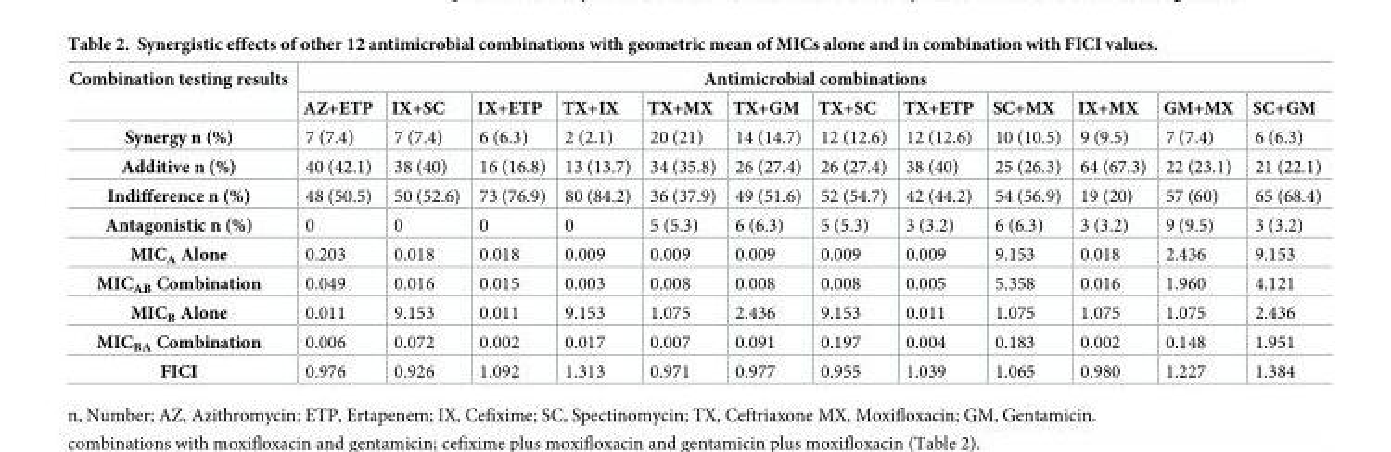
<table><thead><tr><td rowspan="2">Combination testing results</td><td colspan="12">Antimicrobial combinations</td></tr><tr><td>AZ+ETP</td><td>IX+SC</td><td>IX+ETP</td><td>TX+IX</td><td>TX+MX</td><td>TX+GM</td><td>TX+SC</td><td>TX+ETP</td><td>SC+MX</td><td>IX+MX</td><td>GM+MX</td><td>SC+GM</td></tr></thead><tbody><tr><td>Synergy n (%)</td><td>7 (7.4)</td><td>7 (7.4)</td><td>6 (6.3)</td><td>2 (2.1)</td><td>20 (21)</td><td>14 (14.7)</td><td>12 (12.6)</td><td>12 (12.6)</td><td>10 (10.5)</td><td>9 (9.5)</td><td>7 (7.4)</td><td>6 (6.3)</td></tr><tr><td>Additive n (%)</td><td>40 (42.1)</td><td>38 (40)</td><td>16 (16.8)</td><td>13 (13.7)</td><td>34 (35.8)</td><td>26 (27.4)</td><td>26 (27.4)</td><td>38 (40)</td><td>25 (26.3)</td><td>64 (67.3)</td><td>22 (23.1)</td><td>21 (22.1)</td></tr><tr><td>Indifference n (%)</td><td>48 (50.5)</td><td>50 (52.6)</td><td>73 (76.9)</td><td>80 (84.2)</td><td>36 (37.9)</td><td>49 (51.6)</td><td>52 (54.7)</td><td>42 (44.2)</td><td>54 (56.9)</td><td>19 (20)</td><td>57 (60)</td><td>65 (68.4)</td></tr><tr><td>Antagonistic n (%)</td><td>0</td><td>0</td><td>0</td><td>0</td><td>5 (5.3)</td><td>6 (6.3)</td><td>5 (5.3)</td><td>3 (3.2)</td><td>6 (6.3)</td><td>3 (3.2)</td><td>9 (9.5)</td><td>3 (3.2)</td></tr><tr><td>MIC<sub>A</sub> Alone</td><td>0.203</td><td>0.018</td><td>0.018</td><td>0.009</td><td>0.009</td><td>0.009</td><td>0.009</td><td>0.009</td><td>9.153</td><td>0.018</td><td>2.436</td><td>9.153</td></tr><tr><td>MIC<sub>AB</sub> Combination</td><td>0.049</td><td>0.016</td><td>0.015</td><td>0.003</td><td>0.008</td><td>0.008</td><td>0.008</td><td>0.005</td><td>5.358</td><td>0.016</td><td>1.960</td><td>4.121</td></tr><tr><td>MIC<sub>B</sub> Alone</td><td>0.011</td><td>9.153</td><td>0.011</td><td>9.153</td><td>1.075</td><td>2.436</td><td>9.153</td><td>0.011</td><td>1.075</td><td>1.075</td><td>1.075</td><td>2.436</td></tr><tr><td>MIC<sub>BA</sub> Combination</td><td>0.006</td><td>0.072</td><td>0.002</td><td>0.017</td><td>0.007</td><td>0.091</td><td>0.197</td><td>0.004</td><td>0.183</td><td>0.002</td><td>0.148</td><td>1.951</td></tr><tr><td>FICI</td><td>0.976</td><td>0.926</td><td>1.092</td><td>1.313</td><td>0.971</td><td>0.977</td><td>0.955</td><td>1.039</td><td>1.065</td><td>0.980</td><td>1.227</td><td>1.384</td></tr></tbody></table>